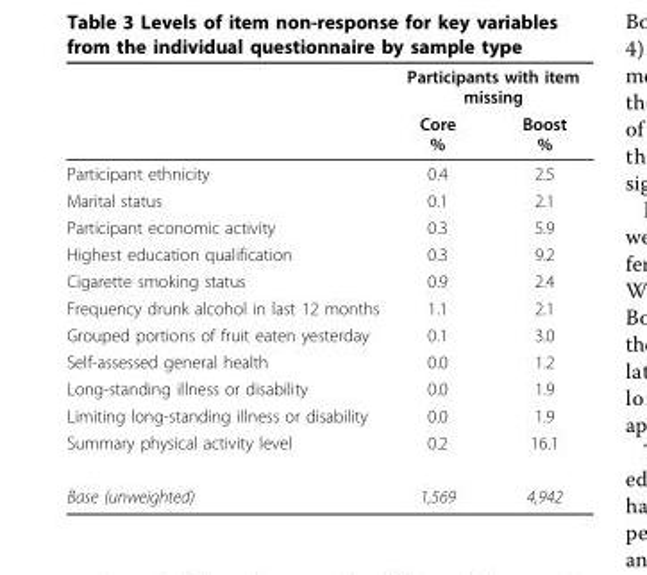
<table><thead><tr><td rowspan="2"></td><td colspan="2">Participants with item missing</td></tr><tr><td>Core %</td><td>Boost %</td></tr></thead><tbody><tr><td>Participant ethnicity</td><td>0.4</td><td>2.5</td></tr><tr><td>Marital status</td><td>0.1</td><td>2.1</td></tr><tr><td>Participant economic activity</td><td>0.3</td><td>5.9</td></tr><tr><td>Highest education qualification</td><td>0.3</td><td>9.2</td></tr><tr><td>Cigarette smoking status</td><td>0.9</td><td>2.4</td></tr><tr><td>Frequency drunk alcohol in last 12 months</td><td>1.1</td><td>2.1</td></tr><tr><td>Grouped portions of fruit eaten yesterday</td><td>0.1</td><td>3.0</td></tr><tr><td>Self-assessed general health</td><td>0.0</td><td>1.2</td></tr><tr><td>Long-standing illness or disability</td><td>0.0</td><td>1.9</td></tr><tr><td>Limiting long-standing illness or disability</td><td>0.0</td><td>1.9</td></tr><tr><td>Summary physical activity level</td><td>0.2</td><td>16.1</td></tr><tr><td>Base (unweighted)</td><td>1,569</td><td>4,942</td></tr></tbody></table>